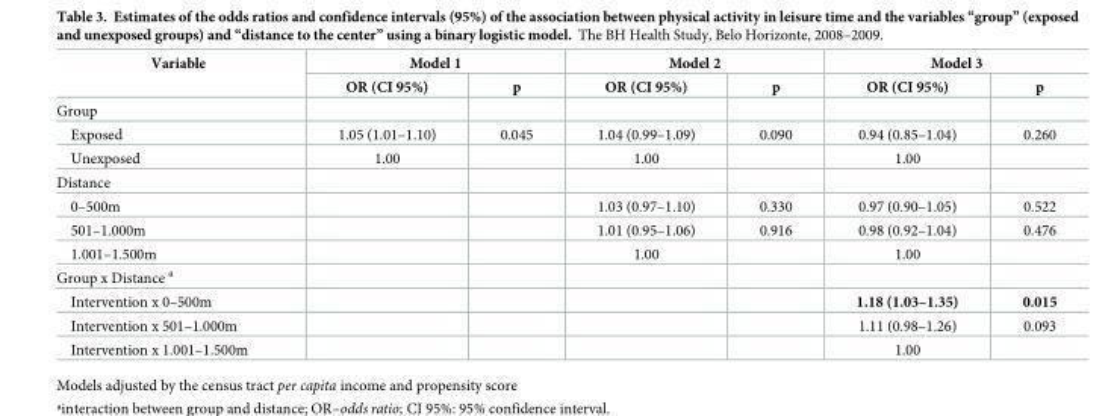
<table><thead><tr><td rowspan="2">Variable</td><td colspan="2">Model 1</td><td colspan="2">Model 2</td><td colspan="2">Model 3</td></tr><tr><td>OR (CI 95%)</td><td>p</td><td>OR (CI 95%)</td><td>p</td><td>OR (CI 95%)</td><td>p</td></tr></thead><tbody><tr><td colspan="7">Group</td></tr><tr><td>Exposed</td><td>1.05 (1.01–1.10)</td><td>0.045</td><td>1.04 (0.99–1.09)</td><td>0.090</td><td>0.94 (0.85–1.04)</td><td>0.260</td></tr><tr><td>Unexposed</td><td>1.00</td><td></td><td>1.00</td><td></td><td>1.00</td><td></td></tr><tr><td colspan="7">Distance</td></tr><tr><td>0–500m</td><td></td><td></td><td>1.03 (0.97–1.10)</td><td>0.330</td><td>0.97 (0.90–1.05)</td><td>0.522</td></tr><tr><td>501–1.000m</td><td></td><td></td><td>1.01 (0.95–1.06)</td><td>0.916</td><td>0.98 (0.92–1.04)</td><td>0.476</td></tr><tr><td>1.001–1.500m</td><td></td><td></td><td>1.00</td><td></td><td>1.00</td><td></td></tr><tr><td colspan="7">Group x Distance <sup>a</sup></td></tr><tr><td>Intervention x 0–500m</td><td></td><td></td><td></td><td></td><td>1.18 (1.03–1.35)</td><td>0.015</td></tr><tr><td>Intervention x 501–1.000m</td><td></td><td></td><td></td><td></td><td>1.11 (0.98–1.26)</td><td>0.093</td></tr><tr><td>Intervention x 1.001–1.500m</td><td></td><td></td><td></td><td></td><td>1.00</td><td></td></tr></tbody></table>